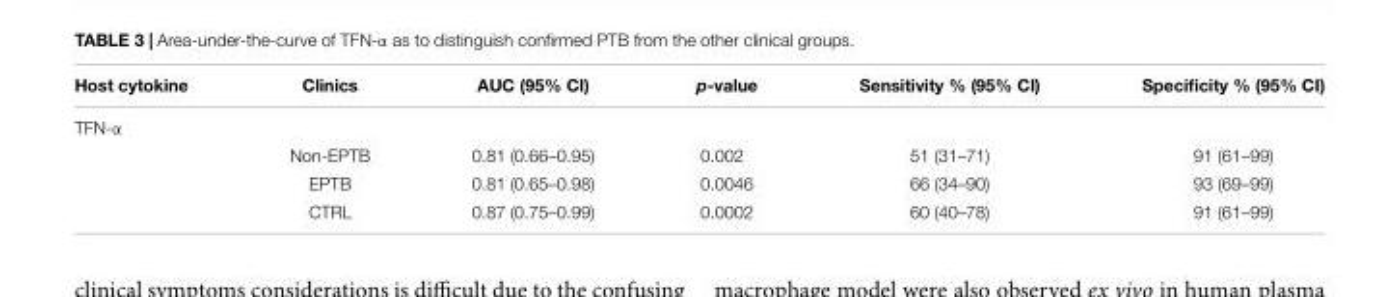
<table><thead><tr><td>Host cytokine</td><td>Clinics</td><td>AUC (95% CI)</td><td>p-value</td><td>Sensitivity % (95% CI)</td><td>Specificity % (95% CI)</td></tr></thead><tbody><tr><td colspan="6">TFN-α</td></tr><tr><td></td><td>Non-EPTB</td><td>0.81 (0.66–0.95)</td><td>0.002</td><td>51 (31–71)</td><td>91 (61–99)</td></tr><tr><td></td><td>EPTB</td><td>0.81 (0.65–0.98)</td><td>0.0046</td><td>66 (34–90)</td><td>93 (69–99)</td></tr><tr><td></td><td>CTRL</td><td>0.87 (0.75–0.99)</td><td>0.0002</td><td>60 (40–78)</td><td>91 (61–99)</td></tr></tbody></table>